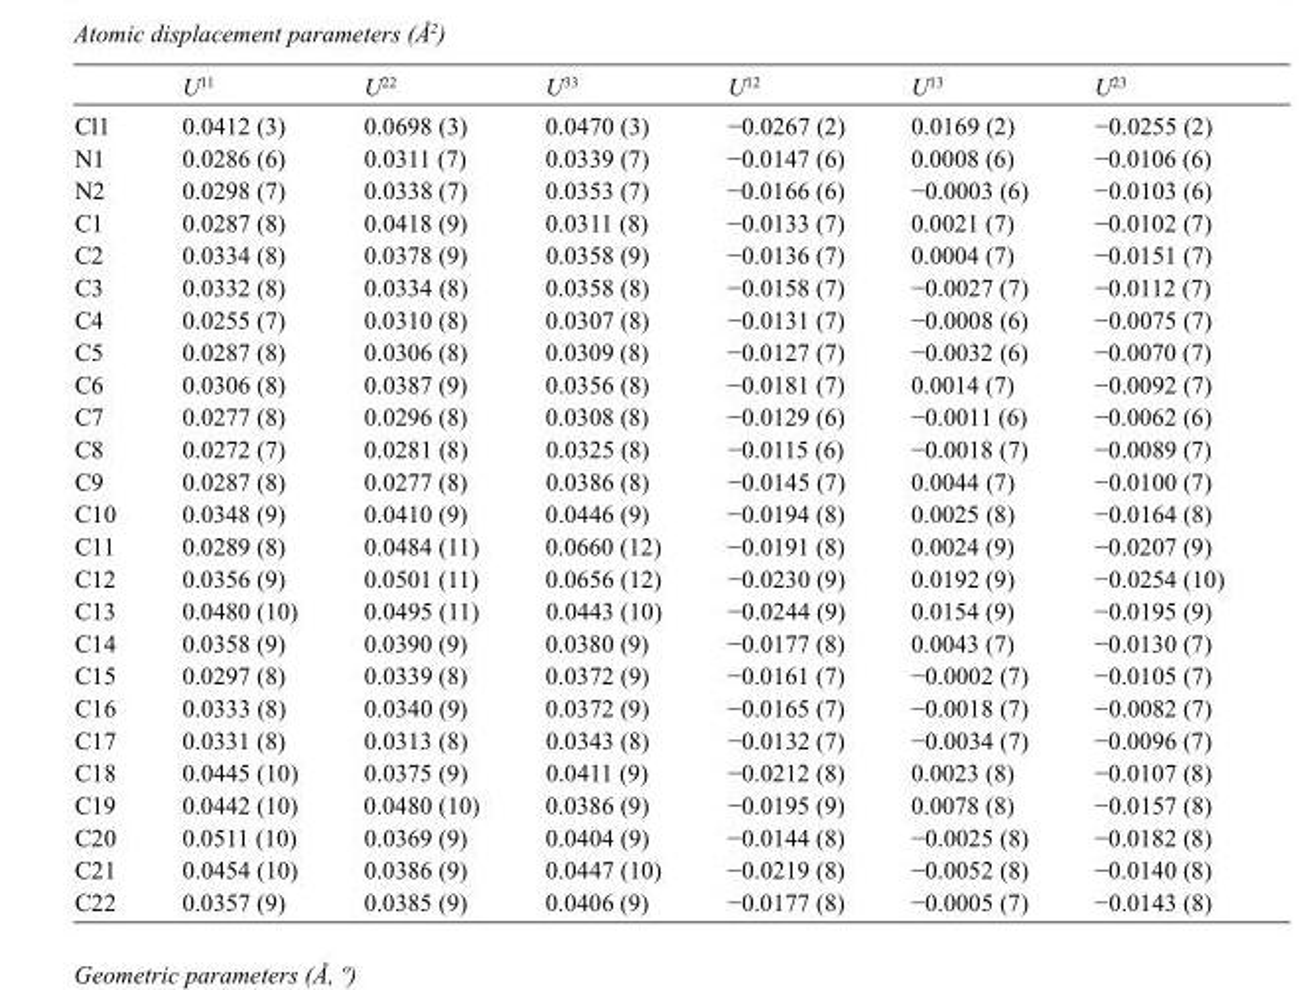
<table><thead><tr><td></td><td>U<sup>11</sup></td><td>U<sup>22</sup></td><td>U<sup>33</sup></td><td>U<sup>12</sup></td><td>U<sup>13</sup></td><td>U<sup>23</sup></td></tr></thead><tbody><tr><td>Cl1</td><td>0.0412 (3)</td><td>0.0698 (3)</td><td>0.0470 (3)</td><td>−0.0267 (2)</td><td>0.0169 (2)</td><td>−0.0255 (2)</td></tr><tr><td>N1</td><td>0.0286 (6)</td><td>0.0311 (7)</td><td>0.0339 (7)</td><td>−0.0147 (6)</td><td>0.0008 (6)</td><td>−0.0106 (6)</td></tr><tr><td>N2</td><td>0.0298 (7)</td><td>0.0338 (7)</td><td>0.0353 (7)</td><td>−0.0166 (6)</td><td>−0.0003 (6)</td><td>−0.0103 (6)</td></tr><tr><td>C1</td><td>0.0287 (8)</td><td>0.0418 (9)</td><td>0.0311 (8)</td><td>−0.0133 (7)</td><td>0.0021 (7)</td><td>−0.0102 (7)</td></tr><tr><td>C2</td><td>0.0334 (8)</td><td>0.0378 (9)</td><td>0.0358 (9)</td><td>−0.0136 (7)</td><td>0.0004 (7)</td><td>−0.0151 (7)</td></tr><tr><td>C3</td><td>0.0332 (8)</td><td>0.0334 (8)</td><td>0.0358 (8)</td><td>−0.0158 (7)</td><td>−0.0027 (7)</td><td>−0.0112 (7)</td></tr><tr><td>C4</td><td>0.0255 (7)</td><td>0.0310 (8)</td><td>0.0307 (8)</td><td>−0.0131 (7)</td><td>−0.0008 (6)</td><td>−0.0075 (7)</td></tr><tr><td>C5</td><td>0.0287 (8)</td><td>0.0306 (8)</td><td>0.0309 (8)</td><td>−0.0127 (7)</td><td>−0.0032 (6)</td><td>−0.0070 (7)</td></tr><tr><td>C6</td><td>0.0306 (8)</td><td>0.0387 (9)</td><td>0.0356 (8)</td><td>−0.0181 (7)</td><td>0.0014 (7)</td><td>−0.0092 (7)</td></tr><tr><td>C7</td><td>0.0277 (8)</td><td>0.0296 (8)</td><td>0.0308 (8)</td><td>−0.0129 (6)</td><td>−0.0011 (6)</td><td>−0.0062 (6)</td></tr><tr><td>C8</td><td>0.0272 (7)</td><td>0.0281 (8)</td><td>0.0325 (8)</td><td>−0.0115 (6)</td><td>−0.0018 (7)</td><td>−0.0089 (7)</td></tr><tr><td>C9</td><td>0.0287 (8)</td><td>0.0277 (8)</td><td>0.0386 (8)</td><td>−0.0145 (7)</td><td>0.0044 (7)</td><td>−0.0100 (7)</td></tr><tr><td>C10</td><td>0.0348 (9)</td><td>0.0410 (9)</td><td>0.0446 (9)</td><td>−0.0194 (8)</td><td>0.0025 (8)</td><td>−0.0164 (8)</td></tr><tr><td>C11</td><td>0.0289 (8)</td><td>0.0484 (11)</td><td>0.0660 (12)</td><td>−0.0191 (8)</td><td>0.0024 (9)</td><td>−0.0207 (9)</td></tr><tr><td>C12</td><td>0.0356 (9)</td><td>0.0501 (11)</td><td>0.0656 (12)</td><td>−0.0230 (9)</td><td>0.0192 (9)</td><td>−0.0254 (10)</td></tr><tr><td>C13</td><td>0.0480 (10)</td><td>0.0495 (11)</td><td>0.0443 (10)</td><td>−0.0244 (9)</td><td>0.0154 (9)</td><td>−0.0195 (9)</td></tr><tr><td>C14</td><td>0.0358 (9)</td><td>0.0390 (9)</td><td>0.0380 (9)</td><td>−0.0177 (8)</td><td>0.0043 (7)</td><td>−0.0130 (7)</td></tr><tr><td>C15</td><td>0.0297 (8)</td><td>0.0339 (8)</td><td>0.0372 (9)</td><td>−0.0161 (7)</td><td>−0.0002 (7)</td><td>−0.0105 (7)</td></tr><tr><td>C16</td><td>0.0333 (8)</td><td>0.0340 (9)</td><td>0.0372 (9)</td><td>−0.0165 (7)</td><td>−0.0018 (7)</td><td>−0.0082 (7)</td></tr><tr><td>C17</td><td>0.0331 (8)</td><td>0.0313 (8)</td><td>0.0343 (8)</td><td>−0.0132 (7)</td><td>−0.0034 (7)</td><td>−0.0096 (7)</td></tr><tr><td>C18</td><td>0.0445 (10)</td><td>0.0375 (9)</td><td>0.0411 (9)</td><td>−0.0212 (8)</td><td>0.0023 (8)</td><td>−0.0107 (8)</td></tr><tr><td>C19</td><td>0.0442 (10)</td><td>0.0480 (10)</td><td>0.0386 (9)</td><td>−0.0195 (9)</td><td>0.0078 (8)</td><td>−0.0157 (8)</td></tr><tr><td>C20</td><td>0.0511 (10)</td><td>0.0369 (9)</td><td>0.0404 (9)</td><td>−0.0144 (8)</td><td>−0.0025 (8)</td><td>−0.0182 (8)</td></tr><tr><td>C21</td><td>0.0454 (10)</td><td>0.0386 (9)</td><td>0.0447 (10)</td><td>−0.0219 (8)</td><td>−0.0052 (8)</td><td>−0.0140 (8)</td></tr><tr><td>C22</td><td>0.0357 (9)</td><td>0.0385 (9)</td><td>0.0406 (9)</td><td>−0.0177 (8)</td><td>−0.0005 (7)</td><td>−0.0143 (8)</td></tr></tbody></table>